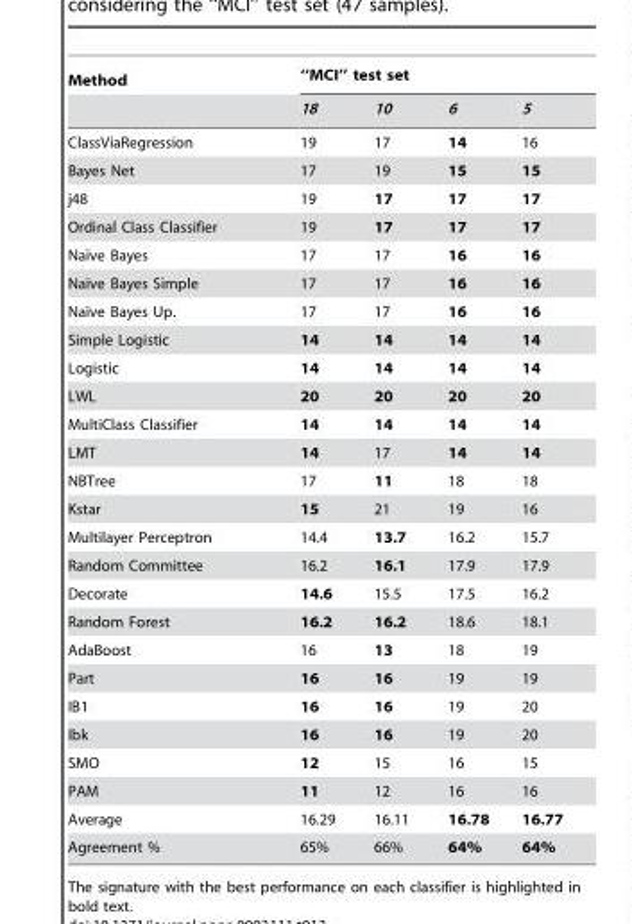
<table><thead><tr><td rowspan="2">Method</td><td colspan="4">‘‘MCI’’ test set</td></tr><tr><td>18</td><td>10</td><td>6</td><td>5</td></tr></thead><tbody><tr><td>ClassViaRegression</td><td>19</td><td>17</td><td>14</td><td>16</td></tr><tr><td>Bayes Net</td><td>17</td><td>19</td><td>15</td><td>15</td></tr><tr><td>j48</td><td>19</td><td>17</td><td>17</td><td>17</td></tr><tr><td>Ordinal Class Classifier</td><td>19</td><td>17</td><td>17</td><td>17</td></tr><tr><td>Naı¨ve Bayes</td><td>17</td><td>17</td><td>16</td><td>16</td></tr><tr><td>Naı¨ve Bayes Simple</td><td>17</td><td>17</td><td>16</td><td>16</td></tr><tr><td>Naı¨ve Bayes Up.</td><td>17</td><td>17</td><td>16</td><td>16</td></tr><tr><td>Simple Logistic</td><td>14</td><td>14</td><td>14</td><td>14</td></tr><tr><td>Logistic</td><td>14</td><td>14</td><td>14</td><td>14</td></tr><tr><td>LWL</td><td>20</td><td>20</td><td>20</td><td>20</td></tr><tr><td>MultiClass Classifier</td><td>14</td><td>14</td><td>14</td><td>14</td></tr><tr><td>LMT</td><td>14</td><td>17</td><td>14</td><td>14</td></tr><tr><td>NBTree</td><td>17</td><td>11</td><td>18</td><td>18</td></tr><tr><td>Kstar</td><td>15</td><td>21</td><td>19</td><td>16</td></tr><tr><td>Multilayer Perceptron</td><td>14.4</td><td>13.7</td><td>16.2</td><td>15.7</td></tr><tr><td>Random Committee</td><td>16.2</td><td>16.1</td><td>17.9</td><td>17.9</td></tr><tr><td>Decorate</td><td>14.6</td><td>15.5</td><td>17.5</td><td>16.2</td></tr><tr><td>Random Forest</td><td>16.2</td><td>16.2</td><td>18.6</td><td>18.1</td></tr><tr><td>AdaBoost</td><td>16</td><td>13</td><td>18</td><td>19</td></tr><tr><td>Part</td><td>16</td><td>16</td><td>19</td><td>19</td></tr><tr><td>IB1</td><td>16</td><td>16</td><td>19</td><td>20</td></tr><tr><td>Ibk</td><td>16</td><td>16</td><td>19</td><td>20</td></tr><tr><td>SMO</td><td>12</td><td>15</td><td>16</td><td>15</td></tr><tr><td>PAM</td><td>11</td><td>12</td><td>16</td><td>16</td></tr><tr><td>Average</td><td>16.29</td><td>16.11</td><td>16.78</td><td>16.77</td></tr><tr><td>Agreement %</td><td>65%</td><td>66%</td><td>64%</td><td>64%</td></tr></tbody></table>